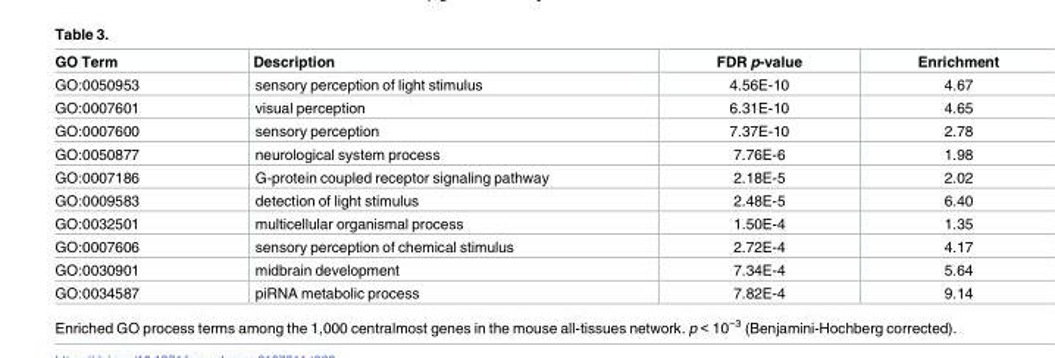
<table><thead><tr><td>GO Term</td><td>Description</td><td>FDR p-value</td><td>Enrichment</td></tr></thead><tbody><tr><td>GO:0050953</td><td>sensory perception of light stimulus</td><td>4.56E-10</td><td>4.67</td></tr><tr><td>GO:0007601</td><td>visual perception</td><td>6.31E-10</td><td>4.65</td></tr><tr><td>GO:0007600</td><td>sensory perception</td><td>7.37E-10</td><td>2.78</td></tr><tr><td>GO:0050877</td><td>neurological system process</td><td>7.76E-6</td><td>1.98</td></tr><tr><td>GO:0007186</td><td>G-protein coupled receptor signaling pathway</td><td>2.18E-5</td><td>2.02</td></tr><tr><td>GO:0009583</td><td>detection of light stimulus</td><td>2.48E-5</td><td>6.40</td></tr><tr><td>GO:0032501</td><td>multicellular organismal process</td><td>1.50E-4</td><td>1.35</td></tr><tr><td>GO:0007606</td><td>sensory perception of chemical stimulus</td><td>2.72E-4</td><td>4.17</td></tr><tr><td>GO:0030901</td><td>midbrain development</td><td>7.34E-4</td><td>5.64</td></tr><tr><td>GO:0034587</td><td>piRNA metabolic process</td><td>7.82E-4</td><td>9.14</td></tr></tbody></table>